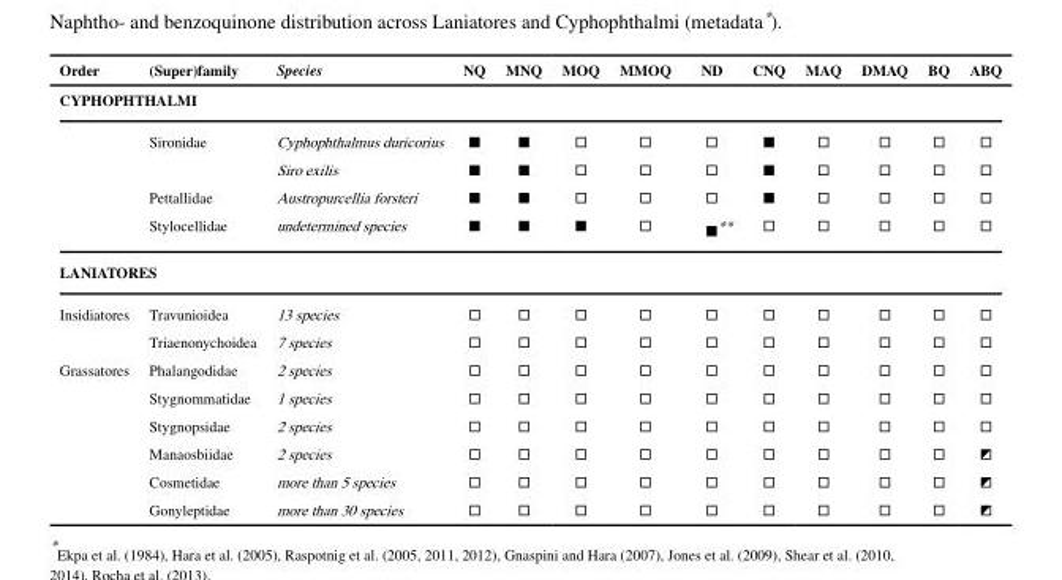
<table><thead><tr><td>Order</td><td>(Super)family</td><td>Species</td><td>NQ</td><td>MNQ</td><td>MOQ</td><td>MMOQ</td><td>ND</td><td>CNQ</td><td>MAQ</td><td>DMAQ</td><td>BQ</td><td>ABQ</td></tr></thead><tbody><tr><td colspan="13">CYPHOPHTHALMI</td></tr><tr><td></td><td>Sironidae</td><td>Cyphophthalmus duricorius</td><td>■</td><td>■</td><td>□</td><td>□</td><td>□</td><td>■</td><td>□</td><td>□</td><td>□</td><td>□</td></tr><tr><td></td><td></td><td>Siro exilis</td><td>■</td><td>■</td><td>□</td><td>□</td><td>□</td><td>■</td><td>□</td><td>□</td><td>□</td><td>□</td></tr><tr><td></td><td>Pettallidae</td><td>Austropurcellia forsteri</td><td>■</td><td>■</td><td>□</td><td>□</td><td>□</td><td>■</td><td>□</td><td>□</td><td>□</td><td>□</td></tr><tr><td></td><td>Stylocellidae</td><td>undetermined species</td><td>■</td><td>■</td><td>■</td><td>□</td><td>■**</td><td>□</td><td>□</td><td>□</td><td>□</td><td>□</td></tr><tr><td colspan="13">LANIATORES</td></tr><tr><td rowspan="2">Insidiatores</td><td>Travunioidea</td><td>13 species</td><td>□</td><td>□</td><td>□</td><td>□</td><td>□</td><td>□</td><td>□</td><td>□</td><td>□</td><td>□</td></tr><tr><td>Triaenonychoidea</td><td>7 species</td><td>□</td><td>□</td><td>□</td><td>□</td><td>□</td><td>□</td><td>□</td><td>□</td><td>□</td><td>□</td></tr><tr><td rowspan="6">Grassatores</td><td>Phalangodidae</td><td>2 species</td><td>□</td><td>□</td><td>□</td><td>□</td><td>□</td><td>□</td><td>□</td><td>□</td><td>□</td><td>□</td></tr><tr><td>Stygnommatidae</td><td>1 species</td><td>□</td><td>□</td><td>□</td><td>□</td><td>□</td><td>□</td><td>□</td><td>□</td><td>□</td><td>□</td></tr><tr><td>Stygnopsidae</td><td>2 species</td><td>□</td><td>□</td><td>□</td><td>□</td><td>□</td><td>□</td><td>□</td><td>□</td><td>□</td><td>□</td></tr><tr><td>Manaosbiidae</td><td>2 species</td><td>□</td><td>□</td><td>□</td><td>□</td><td>□</td><td>□</td><td>□</td><td>□</td><td>□</td><td>◩</td></tr><tr><td>Cosmetidae</td><td>more than 5 species</td><td>□</td><td>□</td><td>□</td><td>□</td><td>□</td><td>□</td><td>□</td><td>□</td><td>□</td><td>◩</td></tr><tr><td>Gonyleptidae</td><td>more than 30 species</td><td>□</td><td>□</td><td>□</td><td>□</td><td>□</td><td>□</td><td>□</td><td>□</td><td>□</td><td>◩</td></tr></tbody></table>